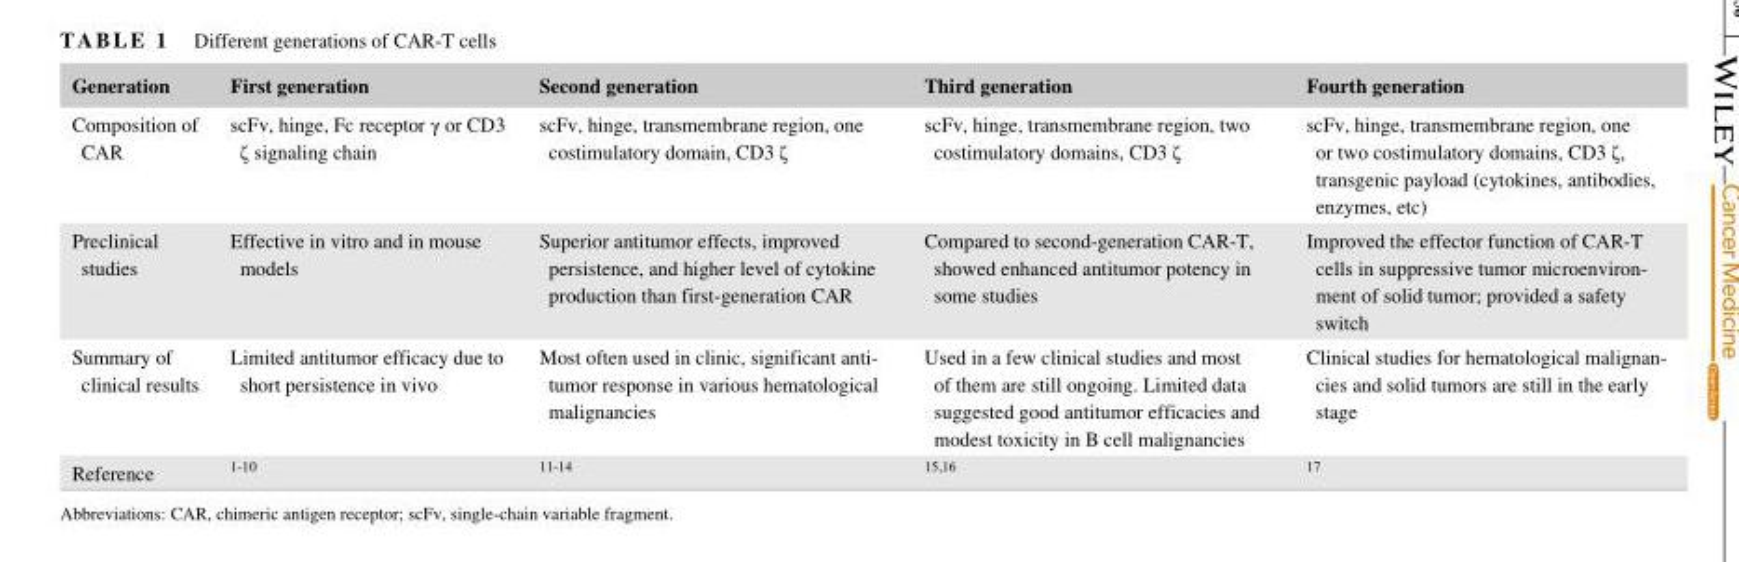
<table><thead><tr><td>Generation</td><td>First generation</td><td>Second generation</td><td>Third generation</td><td>Fourth generation</td></tr></thead><tbody><tr><td>Composition of CAR</td><td>scFv, hinge, Fc receptor γ or CD3 ζ signaling chain</td><td>scFv, hinge, transmembrane region, one costimulatory domain, CD3 ζ</td><td>scFv, hinge, transmembrane region, two costimulatory domains, CD3 ζ</td><td>scFv, hinge, transmembrane region, one or two costimulatory domains, CD3 ζ, transgenic payload (cytokines, antibodies, enzymes, etc)</td></tr><tr><td>Preclinical studies</td><td>Effective in vitro and in mouse models</td><td>Superior antitumor effects, improved persistence, and higher level of cytokine production than first‐generation CAR</td><td>Compared to second‐generation CAR‐T, showed enhanced antitumor potency in some studies</td><td>Improved the effector function of CAR‐T cells in suppressive tumor microenviron- ment of solid tumor; provided a safety switch</td></tr><tr><td>Summary of clinical results</td><td>Limited antitumor efficacy due to short persistence in vivo</td><td>Most often used in clinic, significant anti- tumor response in various hematological malignancies</td><td>Used in a few clinical studies and most of them are still ongoing. Limited data suggested good antitumor efficacies and modest toxicity in B cell malignancies</td><td>Clinical studies for hematological malignan- cies and solid tumors are still in the early stage</td></tr><tr><td>Reference</td><td>1-10</td><td>11-14</td><td>15,16</td><td>17</td></tr></tbody></table>